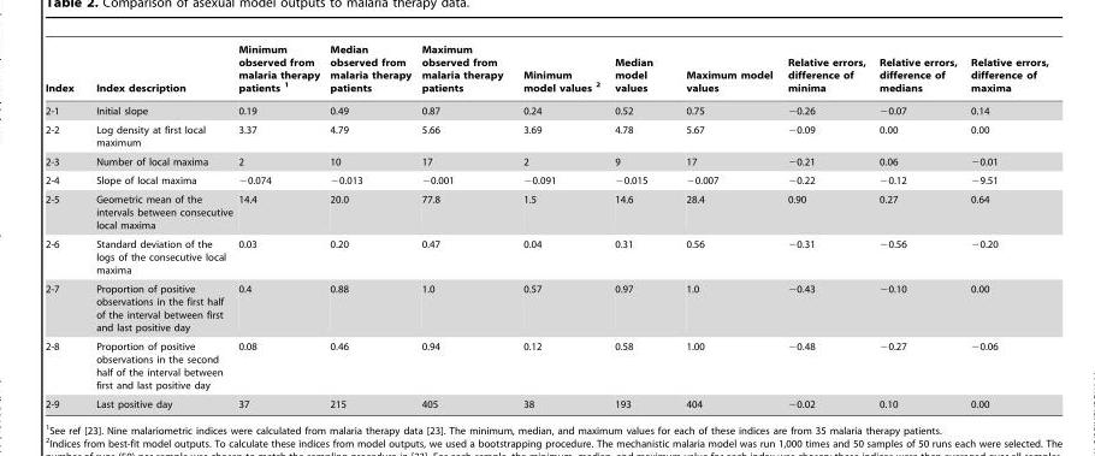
<table><thead><tr><td>Index</td><td>Index description</td><td>Minimum observed from malaria therapy patients 1</td><td>Median observed from malaria therapy patients</td><td>Maximum observed from malaria therapy patients</td><td>Minimum model values 2</td><td>Median model values</td><td>Maximum model values</td><td>Relative errors, difference of minima</td><td>Relative errors, difference of medians</td><td>Relative errors, difference of maxima</td></tr></thead><tbody><tr><td>2-1</td><td>Initial slope</td><td>0.19</td><td>0.49</td><td>0.87</td><td>0.24</td><td>0.52</td><td>0.75</td><td>−0.26</td><td>−0.07</td><td>0.14</td></tr><tr><td>2-2</td><td>Log density at first local maximum</td><td>3.37</td><td>4.79</td><td>5.66</td><td>3.69</td><td>4.78</td><td>5.67</td><td>−0.09</td><td>0.00</td><td>0.00</td></tr><tr><td>2-3</td><td>Number of local maxima</td><td>2</td><td>10</td><td>17</td><td>2</td><td>9</td><td>17</td><td>−0.21</td><td>0.06</td><td>−0.01</td></tr><tr><td>2-4</td><td>Slope of local maxima</td><td>−0.074</td><td>−0.013</td><td>−0.001</td><td>−0.091</td><td>−0.015</td><td>−0.007</td><td>−0.22</td><td>−0.12</td><td>−9.51</td></tr><tr><td>2-5</td><td>Geometric mean of the intervals between consecutive local maxima</td><td>14.4</td><td>20.0</td><td>77.8</td><td>1.5</td><td>14.6</td><td>28.4</td><td>0.90</td><td>0.27</td><td>0.64</td></tr><tr><td>2-6</td><td>Standard deviation of the logs of the consecutive local maxima</td><td>0.03</td><td>0.20</td><td>0.47</td><td>0.04</td><td>0.31</td><td>0.56</td><td>−0.31</td><td>−0.56</td><td>−0.20</td></tr><tr><td>2-7</td><td>Proportion of positive observations in the first half of the interval between first and last positive day</td><td>0.4</td><td>0.88</td><td>1.0</td><td>0.57</td><td>0.97</td><td>1.0</td><td>−0.43</td><td>−0.10</td><td>0.00</td></tr><tr><td>2-8</td><td>Proportion of positive observations in the second half of the interval between first and last positive day</td><td>0.08</td><td>0.46</td><td>0.94</td><td>0.12</td><td>0.58</td><td>1.00</td><td>−0.48</td><td>−0.27</td><td>−0.06</td></tr><tr><td>2-9</td><td>Last positive day</td><td>37</td><td>215</td><td>405</td><td>38</td><td>193</td><td>404</td><td>−0.02</td><td>0.10</td><td>0.00</td></tr></tbody></table>